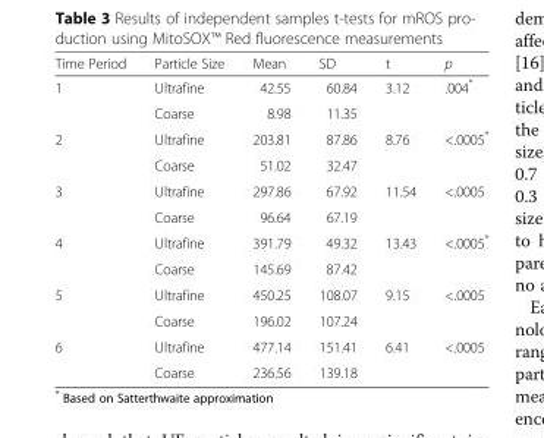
<table><thead><tr><td>Time Period</td><td>Particle Size</td><td>Mean</td><td>SD</td><td>t</td><td>p</td></tr></thead><tbody><tr><td rowspan="2">1</td><td>Ultrafine</td><td>42.55</td><td>60.84</td><td rowspan="2">3.12</td><td rowspan="2">.004*</td></tr><tr><td>Coarse</td><td>8.98</td><td>11.35</td></tr><tr><td rowspan="2">2</td><td>Ultrafine</td><td>203.81</td><td>87.86</td><td rowspan="2">8.76</td><td rowspan="2">&lt;.0005*</td></tr><tr><td>Coarse</td><td>51.02</td><td>32.47</td></tr><tr><td rowspan="2">3</td><td>Ultrafine</td><td>297.86</td><td>67.92</td><td rowspan="2">11.54</td><td rowspan="2">&lt;.0005</td></tr><tr><td>Coarse</td><td>96.64</td><td>67.19</td></tr><tr><td rowspan="2">4</td><td>Ultrafine</td><td>391.79</td><td>49.32</td><td rowspan="2">13.43</td><td rowspan="2">&lt;.0005*</td></tr><tr><td>Coarse</td><td>145.69</td><td>87.42</td></tr><tr><td rowspan="2">5</td><td>Ultrafine</td><td>450.25</td><td>108.07</td><td rowspan="2">9.15</td><td rowspan="2">&lt;.0005</td></tr><tr><td>Coarse</td><td>196.02</td><td>107.24</td></tr><tr><td rowspan="2">6</td><td>Ultrafine</td><td>477.14</td><td>151.41</td><td rowspan="2">6.41</td><td rowspan="2">&lt;.0005</td></tr><tr><td>Coarse</td><td>236.56</td><td>139.18</td></tr></tbody></table>